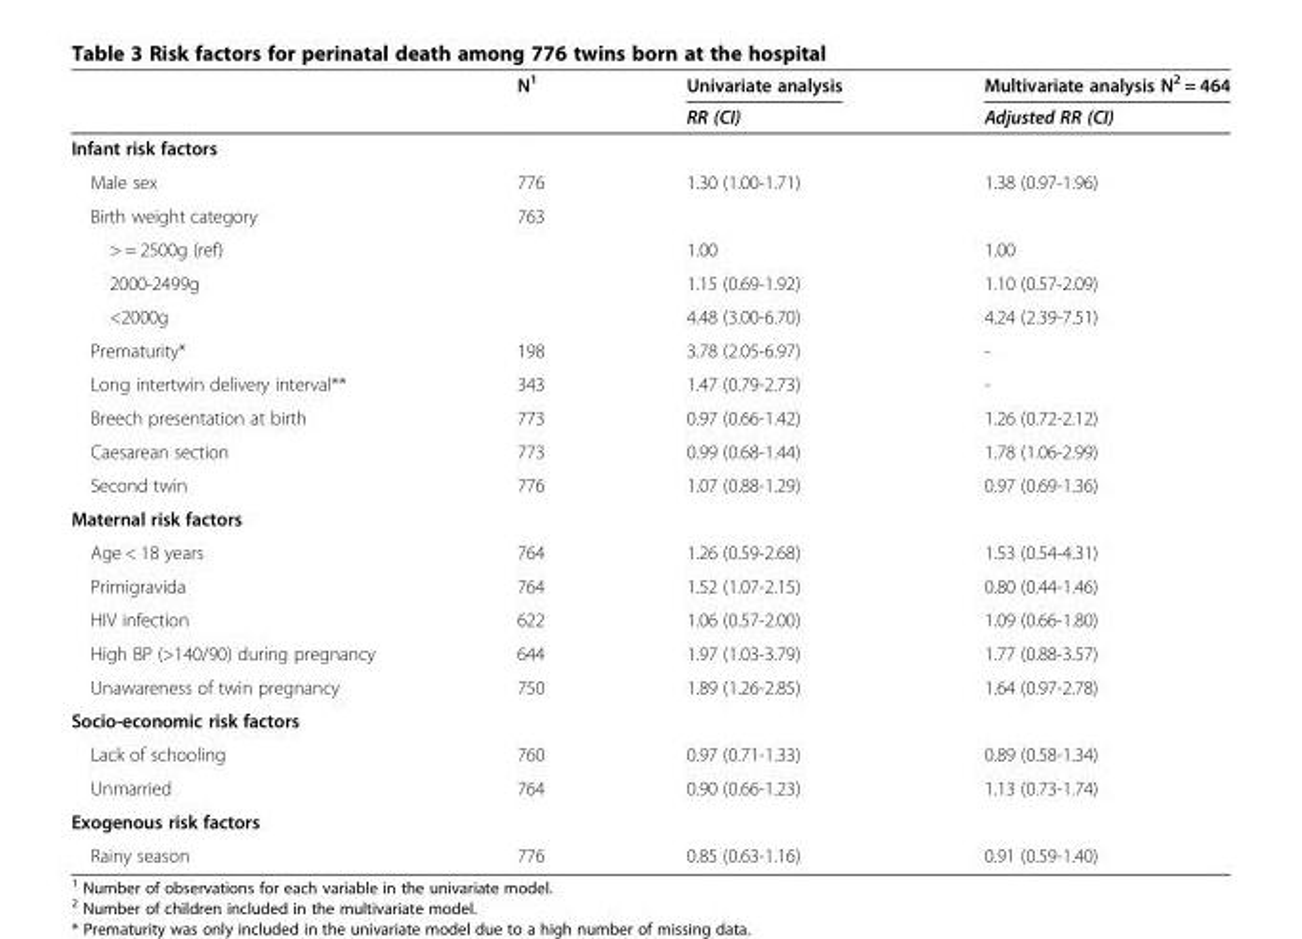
<table><thead><tr><td rowspan="2"></td><td rowspan="2">N<sup>1</sup></td><td rowspan="2">Univariate analysis RR (CI)</td><td rowspan="2">Multivariate analysis N<sup>2</sup> = 464 Adjusted RR (CI)</td></tr><tr></tr></thead><tbody><tr><td colspan="4">Infant risk factors</td></tr><tr><td>Male sex</td><td>776</td><td>1.30 (1.00-1.71)</td><td>1.38 (0.97-1.96)</td></tr><tr><td>Birth weight category</td><td>763</td><td></td><td></td></tr><tr><td>&gt; = 2500g (ref)</td><td></td><td>1.00</td><td>1.00</td></tr><tr><td>2000-2499g</td><td></td><td>1.15 (0.69-1.92)</td><td>1.10 (0.57-2.09)</td></tr><tr><td>&lt;2000g</td><td></td><td>4.48 (3.00-6.70)</td><td>4.24 (2.39-7.51)</td></tr><tr><td>Prematurity*</td><td>198</td><td>3.78 (2.05-6.97)</td><td>-</td></tr><tr><td>Long intertwin delivery interval**</td><td>343</td><td>1.47 (0.79-2.73)</td><td>-</td></tr><tr><td>Breech presentation at birth</td><td>773</td><td>0.97 (0.66-1.42)</td><td>1.26 (0.72-2.12)</td></tr><tr><td>Caesarean section</td><td>773</td><td>0.99 (0.68-1.44)</td><td>1.78 (1.06-2.99)</td></tr><tr><td>Second twin</td><td>776</td><td>1.07 (0.88-1.29)</td><td>0.97 (0.69-1.36)</td></tr><tr><td colspan="4">Maternal risk factors</td></tr><tr><td>Age &lt; 18 years</td><td>764</td><td>1.26 (0.59-2.68)</td><td>1.53 (0.54-4.31)</td></tr><tr><td>Primigravida</td><td>764</td><td>1.52 (1.07-2.15)</td><td>0.80 (0.44-1.46)</td></tr><tr><td>HIV infection</td><td>622</td><td>1.06 (0.57-2.00)</td><td>1.09 (0.66-1.80)</td></tr><tr><td>High BP (&gt;140/90) during pregnancy</td><td>644</td><td>1.97 (1.03-3.79)</td><td>1.77 (0.88-3.57)</td></tr><tr><td>Unawareness of twin pregnancy</td><td>750</td><td>1.89 (1.26-2.85)</td><td>1.64 (0.97-2.78)</td></tr><tr><td colspan="4">Socio-economic risk factors</td></tr><tr><td>Lack of schooling</td><td>760</td><td>0.97 (0.71-1.33)</td><td>0.89 (0.58-1.34)</td></tr><tr><td>Unmarried</td><td>764</td><td>0.90 (0.66-1.23)</td><td>1.13 (0.73-1.74)</td></tr><tr><td colspan="4">Exogenous risk factors</td></tr><tr><td>Rainy season</td><td>776</td><td>0.85 (0.63-1.16)</td><td>0.91 (0.59-1.40)</td></tr></tbody></table>